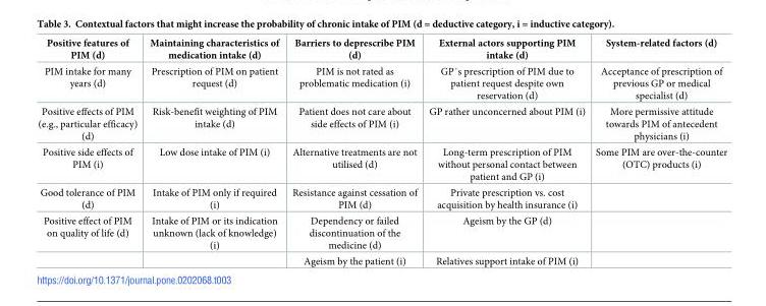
<table><thead><tr><td>Positive features of PIM (d)</td><td>Maintaining characteristics of medication intake (d)</td><td>Barriers to deprescribe PIM (d)</td><td>External actors supporting PIM intake (d)</td><td>System-related factors (d)</td></tr></thead><tbody><tr><td>PIM intake for many years (d)</td><td>Prescription of PIM on patient request (d)</td><td>PIM is not rated as problematic medication (i)</td><td>GP´s prescription of PIM due to patient request despite own reservation (d)</td><td>Acceptance of prescription of previous GP or medical specialist (d)</td></tr><tr><td>Positive effects of PIM (e.g., particular efficacy) (d)</td><td>Risk-benefit weighting of PIM intake (d)</td><td>Patient does not care about side effects of PIM (i)</td><td>GP rather unconcerned about PIM (i)</td><td>More permissive attitude towards PIM of antecedent physicians (i)</td></tr><tr><td>Positive side effects of PIM (i)</td><td>Low dose intake of PIM (i)</td><td>Alternative treatments are not utilised (d)</td><td>Long-term prescription of PIM without personal contact between patient and GP (i)</td><td>Some PIM are over-the-counter (OTC) products (i)</td></tr><tr><td>Good tolerance of PIM (d)</td><td>Intake of PIM only if required (i)</td><td>Resistance against cessation of PIM (d)</td><td>Private prescription vs. cost acquisition by health insurance (i)</td><td></td></tr><tr><td rowspan="2">Positive effect of PIM on quality of life (d)</td><td>Intake of PIM or its indication unknown (lack of knowledge) (i)</td><td>Dependency or failed discontinuation of the medicine (d)</td><td>Ageism by the GP (d)</td><td></td></tr><tr><td></td><td>Ageism by the patient (i)</td><td>Relatives support intake of PIM (i)</td><td></td></tr></tbody></table>